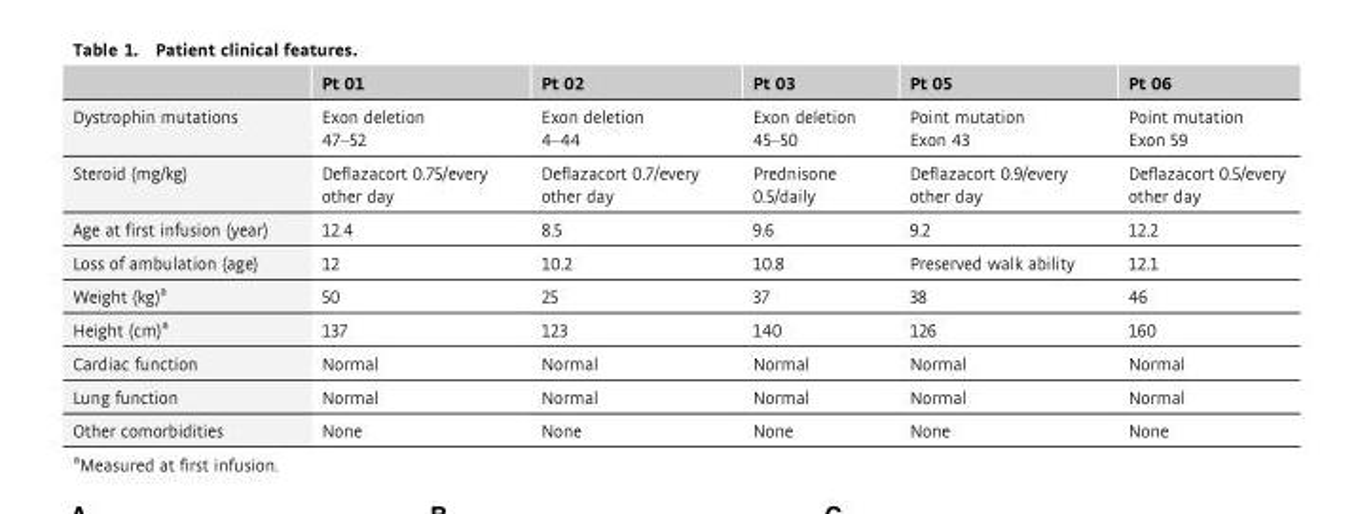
<table><thead><tr><td></td><td>Pt 01</td><td>Pt 02</td><td>Pt 03</td><td>Pt 05</td><td>Pt 06</td></tr></thead><tbody><tr><td>Dystrophin mutations</td><td>Exon deletion 47–52</td><td>Exon deletion 4–44</td><td>Exon deletion 45–50</td><td>Point mutation Exon 43</td><td>Point mutation Exon 59</td></tr><tr><td>Steroid (mg/kg)</td><td>Deflazacort 0.75/every other day</td><td>Deflazacort 0.7/every other day</td><td>Prednisone 0.5/daily</td><td>Deflazacort 0.9/every other day</td><td>Deflazacort 0.5/every other day</td></tr><tr><td>Age at first infusion (year)</td><td>12.4</td><td>8.5</td><td>9.6</td><td>9.2</td><td>12.2</td></tr><tr><td>Loss of ambulation (age)</td><td>12</td><td>10.2</td><td>10.8</td><td>Preserved walk ability</td><td>12.1</td></tr><tr><td>Weight (kg)<sup>a</sup></td><td>50</td><td>25</td><td>37</td><td>38</td><td>46</td></tr><tr><td>Height (cm)<sup>a</sup></td><td>137</td><td>123</td><td>140</td><td>126</td><td>160</td></tr><tr><td>Cardiac function</td><td>Normal</td><td>Normal</td><td>Normal</td><td>Normal</td><td>Normal</td></tr><tr><td>Lung function</td><td>Normal</td><td>Normal</td><td>Normal</td><td>Normal</td><td>Normal</td></tr><tr><td>Other comorbidities</td><td>None</td><td>None</td><td>None</td><td>None</td><td>None</td></tr></tbody></table>